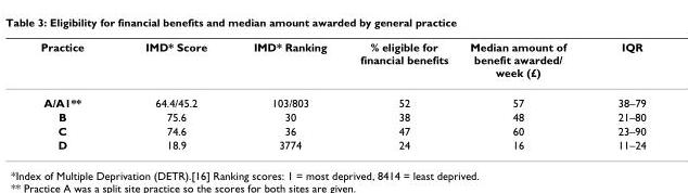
<table><thead><tr><td>Practice</td><td>IMD* Score</td><td>IMD* Ranking</td><td>% eligible for financial benefits</td><td>Median amount of benefit awarded/ week (£)</td><td>IQR</td></tr></thead><tbody><tr><td>A/A1**</td><td>64.4/45.2</td><td>103/803</td><td>52</td><td>57</td><td>38–79</td></tr><tr><td>B</td><td>75.6</td><td>30</td><td>38</td><td>48</td><td>21–80</td></tr><tr><td>C</td><td>74.6</td><td>36</td><td>47</td><td>60</td><td>23–90</td></tr><tr><td>D</td><td>18.9</td><td>3774</td><td>24</td><td>16</td><td>11–24</td></tr></tbody></table>